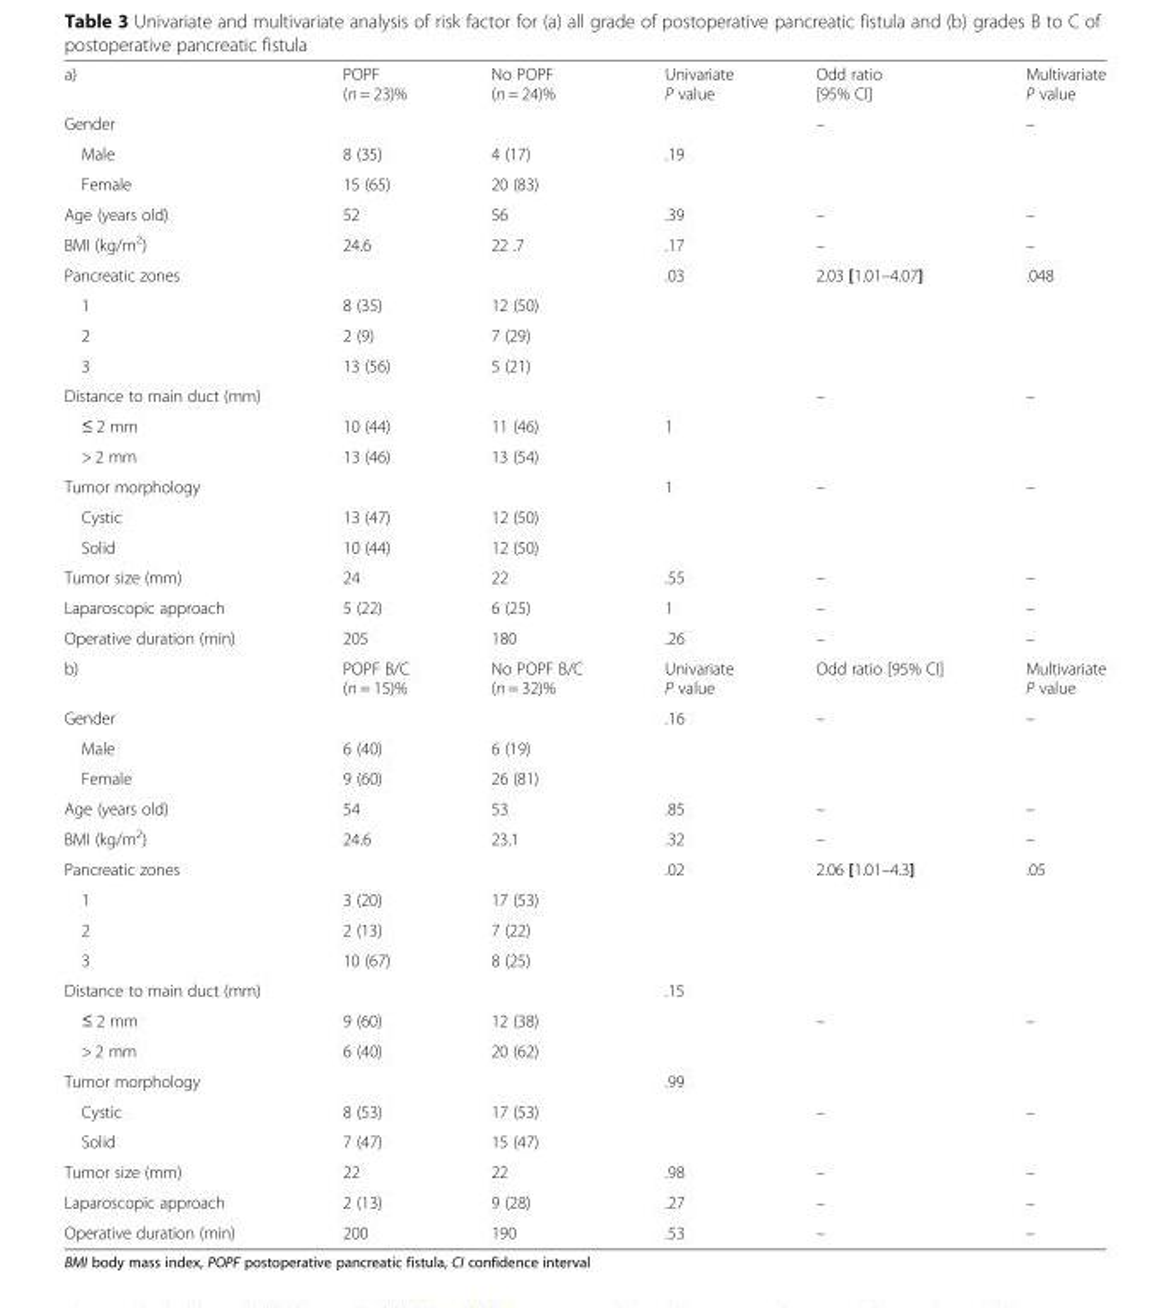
<table><tbody><tr><td>a)</td><td>POPF (n = 23)%</td><td>No POPF (n = 24)%</td><td>Univariate P value</td><td>Odd ratio [95% CI]</td><td>Multivariate P value</td></tr><tr><td>Gender</td><td></td><td></td><td></td><td>–</td><td>–</td></tr><tr><td>Male</td><td>8 (35)</td><td>4 (17)</td><td>.19</td><td></td><td></td></tr><tr><td>Female</td><td>15 (65)</td><td>20 (83)</td><td></td><td></td><td></td></tr><tr><td>Age (years old)</td><td>52</td><td>56</td><td>.39</td><td>–</td><td>–</td></tr><tr><td>BMI (kg/m<sup>2</sup>)</td><td>24.6</td><td>22 .7</td><td>.17</td><td>–</td><td>–</td></tr><tr><td>Pancreatic zones</td><td></td><td></td><td>.03</td><td>2.03 [1.01–4.07]</td><td>.048</td></tr><tr><td>1</td><td>8 (35)</td><td>12 (50)</td><td></td><td></td><td></td></tr><tr><td>2</td><td>2 (9)</td><td>7 (29)</td><td></td><td></td><td></td></tr><tr><td>3</td><td>13 (56)</td><td>5 (21)</td><td></td><td></td><td></td></tr><tr><td>Distance to main duct (mm)</td><td></td><td></td><td></td><td>–</td><td>–</td></tr><tr><td>≤ 2 mm</td><td>10 (44)</td><td>11 (46)</td><td>1</td><td></td><td></td></tr><tr><td>&gt; 2 mm</td><td>13 (46)</td><td>13 (54)</td><td></td><td></td><td></td></tr><tr><td>Tumor morphology</td><td></td><td></td><td>1</td><td>–</td><td>–</td></tr><tr><td>Cystic</td><td>13 (47)</td><td>12 (50)</td><td></td><td></td><td></td></tr><tr><td>Solid</td><td>10 (44)</td><td>12 (50)</td><td></td><td></td><td></td></tr><tr><td>Tumor size (mm)</td><td>24</td><td>22</td><td>.55</td><td>–</td><td>–</td></tr><tr><td>Laparoscopic approach</td><td>5 (22)</td><td>6 (25)</td><td>1</td><td>–</td><td>–</td></tr><tr><td>Operative duration (min)</td><td>205</td><td>180</td><td>.26</td><td>–</td><td>–</td></tr><tr><td>b)</td><td>POPF B/C (n = 15)%</td><td>No POPF B/C (n = 32)%</td><td>Univariate P value</td><td>Odd ratio [95% CI]</td><td>Multivariate P value</td></tr><tr><td>Gender</td><td></td><td></td><td>.16</td><td>–</td><td>–</td></tr><tr><td>Male</td><td>6 (40)</td><td>6 (19)</td><td></td><td></td><td></td></tr><tr><td>Female</td><td>9 (60)</td><td>26 (81)</td><td></td><td></td><td></td></tr><tr><td>Age (years old)</td><td>54</td><td>53</td><td>.85</td><td>–</td><td>–</td></tr><tr><td>BMI (kg/m<sup>2</sup>)</td><td>24.6</td><td>23.1</td><td>.32</td><td>–</td><td>–</td></tr><tr><td>Pancreatic zones</td><td></td><td></td><td>.02</td><td>2.06 [1.01–4.3]</td><td>.05</td></tr><tr><td>1</td><td>3 (20)</td><td>17 (53)</td><td></td><td></td><td></td></tr><tr><td>2</td><td>2 (13)</td><td>7 (22)</td><td></td><td></td><td></td></tr><tr><td>3</td><td>10 (67)</td><td>8 (25)</td><td></td><td></td><td></td></tr><tr><td>Distance to main duct (mm)</td><td></td><td></td><td>.15</td><td></td><td></td></tr><tr><td>≤ 2 mm</td><td>9 (60)</td><td>12 (38)</td><td></td><td>–</td><td>–</td></tr><tr><td>&gt; 2 mm</td><td>6 (40)</td><td>20 (62)</td><td></td><td></td><td></td></tr><tr><td>Tumor morphology</td><td></td><td></td><td>.99</td><td></td><td></td></tr><tr><td>Cystic</td><td>8 (53)</td><td>17 (53)</td><td></td><td>–</td><td>–</td></tr><tr><td>Solid</td><td>7 (47)</td><td>15 (47)</td><td></td><td></td><td></td></tr><tr><td>Tumor size (mm)</td><td>22</td><td>22</td><td>.98</td><td>–</td><td>–</td></tr><tr><td>Laparoscopic approach</td><td>2 (13)</td><td>9 (28)</td><td>.27</td><td>–</td><td>–</td></tr><tr><td>Operative duration (min)</td><td>200</td><td>190</td><td>.53</td><td>–</td><td>–</td></tr></tbody></table>